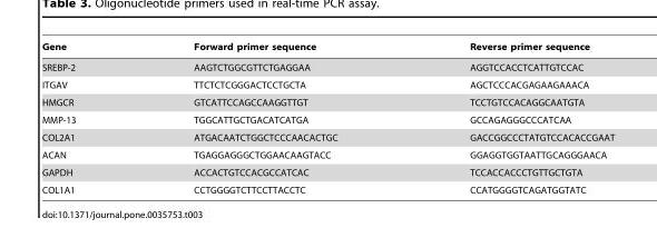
<table><thead><tr><td>Gene</td><td>Forward primer sequence</td><td>Reverse primer sequence</td></tr></thead><tbody><tr><td>SREBP-2</td><td>AAGTCTGGCGTTCTGAGGAA</td><td>AGGTCCACCTCATTGTCCAC</td></tr><tr><td>ITGAV</td><td>TTCTCTCGGGACTCCTGCTA</td><td>AGCTCCCACGAGAAGAAACA</td></tr><tr><td>HMGCR</td><td>GTCATTCCAGCCAAGGTTGT</td><td>TCCTGTCCACAGGCAATGTA</td></tr><tr><td>MMP-13</td><td>TGGCATTGCTGACATCATGA</td><td>GCCAGAGGGCCCATCAA</td></tr><tr><td>COL2A1</td><td>ATGACAATCTGGCTCCCAACACTGC</td><td>GACCGGCCCTATGTCCACACCGAAT</td></tr><tr><td>ACAN</td><td>TGAGGAGGGCTGGAACAAGTACC</td><td>GGAGGTGGTAATTGCAGGGAACA</td></tr><tr><td>GAPDH</td><td>ACCACTGTCCACGCCATCAC</td><td>TCCACCACCCTGTTGCTGTA</td></tr><tr><td>COL1A1</td><td>CCTGGGGTCTTCCTTACCTC</td><td>CCATGGGGTCAGATGGTATC</td></tr></tbody></table>